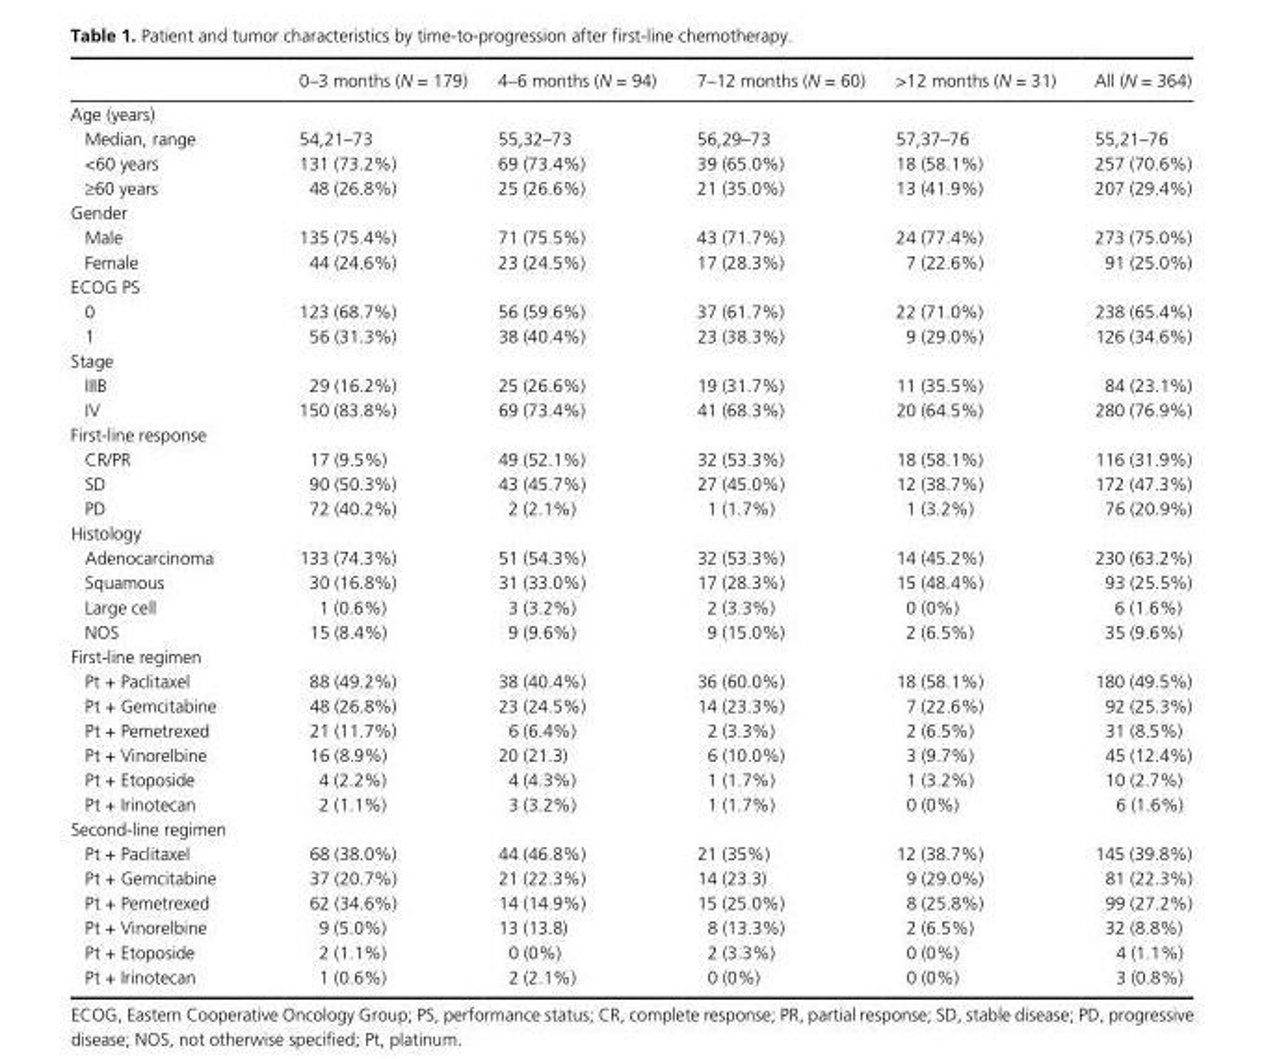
<table><thead><tr><td></td><td>0–3 months (N = 179)</td><td>4–6 months (N = 94)</td><td>7–12 months (N = 60)</td><td>&gt;12 months (N = 31)</td><td>All (N = 364)</td></tr></thead><tbody><tr><td colspan="6">Age (years)</td></tr><tr><td>Median, range</td><td>54,21–73</td><td>55,32–73</td><td>56,29–73</td><td>57,37–76</td><td>55,21–76</td></tr><tr><td>&lt;60 years</td><td>131 (73.2%)</td><td>69 (73.4%)</td><td>39 (65.0%)</td><td>18 (58.1%)</td><td>257 (70.6%)</td></tr><tr><td>≥60 years</td><td>48 (26.8%)</td><td>25 (26.6%)</td><td>21 (35.0%)</td><td>13 (41.9%)</td><td>207 (29.4%)</td></tr><tr><td colspan="6">Gender</td></tr><tr><td>Male</td><td>135 (75.4%)</td><td>71 (75.5%)</td><td>43 (71.7%)</td><td>24 (77.4%)</td><td>273 (75.0%)</td></tr><tr><td>Female</td><td>44 (24.6%)</td><td>23 (24.5%)</td><td>17 (28.3%)</td><td>7 (22.6%)</td><td>91 (25.0%)</td></tr><tr><td colspan="6">ECOG PS</td></tr><tr><td>0</td><td>123 (68.7%)</td><td>56 (59.6%)</td><td>37 (61.7%)</td><td>22 (71.0%)</td><td>238 (65.4%)</td></tr><tr><td>1</td><td>56 (31.3%)</td><td>38 (40.4%)</td><td>23 (38.3%)</td><td>9 (29.0%)</td><td>126 (34.6%)</td></tr><tr><td colspan="6">Stage</td></tr><tr><td>IIIB</td><td>29 (16.2%)</td><td>25 (26.6%)</td><td>19 (31.7%)</td><td>11 (35.5%)</td><td>84 (23.1%)</td></tr><tr><td>IV</td><td>150 (83.8%)</td><td>69 (73.4%)</td><td>41 (68.3%)</td><td>20 (64.5%)</td><td>280 (76.9%)</td></tr><tr><td colspan="6">First- line response</td></tr><tr><td>CR/PR</td><td>17 (9.5%)</td><td>49 (52.1%)</td><td>32 (53.3%)</td><td>18 (58.1%)</td><td>116 (31.9%)</td></tr><tr><td>SD</td><td>90 (50.3%)</td><td>43 (45.7%)</td><td>27 (45.0%)</td><td>12 (38.7%)</td><td>172 (47.3%)</td></tr><tr><td>PD</td><td>72 (40.2%)</td><td>2 (2.1%)</td><td>1 (1.7%)</td><td>1 (3.2%)</td><td>76 (20.9%)</td></tr><tr><td colspan="6">Histology</td></tr><tr><td>Adenocarcinoma</td><td>133 (74.3%)</td><td>51 (54.3%)</td><td>32 (53.3%)</td><td>14 (45.2%)</td><td>230 (63.2%)</td></tr><tr><td>Squamous</td><td>30 (16.8%)</td><td>31 (33.0%)</td><td>17 (28.3%)</td><td>15 (48.4%)</td><td>93 (25.5%)</td></tr><tr><td>Large cell</td><td>1 (0.6%)</td><td>3 (3.2%)</td><td>2 (3.3%)</td><td>0 (0%)</td><td>6 (1.6%)</td></tr><tr><td>NOS</td><td>15 (8.4%)</td><td>9 (9.6%)</td><td>9 (15.0%)</td><td>2 (6.5%)</td><td>35 (9.6%)</td></tr><tr><td colspan="6">First- line regimen</td></tr><tr><td>Pt + Paclitaxel</td><td>88 (49.2%)</td><td>38 (40.4%)</td><td>36 (60.0%)</td><td>18 (58.1%)</td><td>180 (49.5%)</td></tr><tr><td>Pt + Gemcitabine</td><td>48 (26.8%)</td><td>23 (24.5%)</td><td>14 (23.3%)</td><td>7 (22.6%)</td><td>92 (25.3%)</td></tr><tr><td>Pt + Pemetrexed</td><td>21 (11.7%)</td><td>6 (6.4%)</td><td>2 (3.3%)</td><td>2 (6.5%)</td><td>31 (8.5%)</td></tr><tr><td>Pt + Vinorelbine</td><td>16 (8.9%)</td><td>20 (21.3)</td><td>6 (10.0%)</td><td>3 (9.7%)</td><td>45 (12.4%)</td></tr><tr><td>Pt + Etoposide</td><td>4 (2.2%)</td><td>4 (4.3%)</td><td>1 (1.7%)</td><td>1 (3.2%)</td><td>10 (2.7%)</td></tr><tr><td>Pt + Irinotecan</td><td>2 (1.1%)</td><td>3 (3.2%)</td><td>1 (1.7%)</td><td>0 (0%)</td><td>6 (1.6%)</td></tr><tr><td colspan="6">Second- line regimen</td></tr><tr><td>Pt + Paclitaxel</td><td>68 (38.0%)</td><td>44 (46.8%)</td><td>21 (35%)</td><td>12 (38.7%)</td><td>145 (39.8%)</td></tr><tr><td>Pt + Gemcitabine</td><td>37 (20.7%)</td><td>21 (22.3%)</td><td>14 (23.3)</td><td>9 (29.0%)</td><td>81 (22.3%)</td></tr><tr><td>Pt + Pemetrexed</td><td>62 (34.6%)</td><td>14 (14.9%)</td><td>15 (25.0%)</td><td>8 (25.8%)</td><td>99 (27.2%)</td></tr><tr><td>Pt + Vinorelbine</td><td>9 (5.0%)</td><td>13 (13.8)</td><td>8 (13.3%)</td><td>2 (6.5%)</td><td>32 (8.8%)</td></tr><tr><td>Pt + Etoposide</td><td>2 (1.1%)</td><td>0 (0%)</td><td>2 (3.3%)</td><td>0 (0%)</td><td>4 (1.1%)</td></tr><tr><td>Pt + Irinotecan</td><td>1 (0.6%)</td><td>2 (2.1%)</td><td>0 (0%)</td><td>0 (0%)</td><td>3 (0.8%)</td></tr></tbody></table>